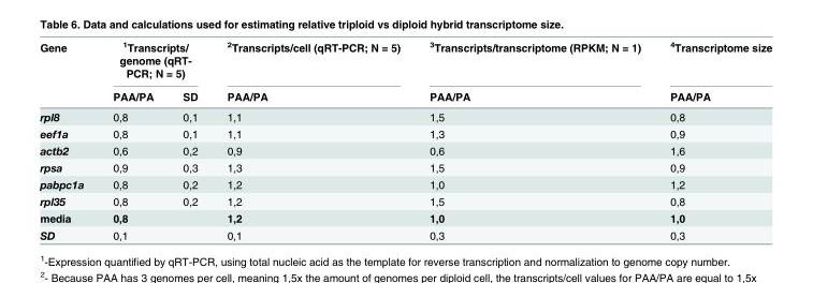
<table><thead><tr><td rowspan="2">Gene</td><td colspan="2"><sup>1</sup>Transcripts/ genome (qRT- PCR; N = 5)</td><td rowspan="2"><sup>2</sup>Transcripts/cell (qRT-PCR; N = 5) PAA/PA</td><td rowspan="2"><sup>3</sup>Transcripts/transcriptome (RPKM; N = 1) PAA/PA</td><td rowspan="2"><sup>4</sup>Transcriptome size PAA/PA</td></tr><tr><td>PAA/PA</td><td>SD</td></tr></thead><tbody><tr><td>rpl8</td><td>0,8</td><td>0,1</td><td>1,1</td><td>1,5</td><td>0,8</td></tr><tr><td>eef1a</td><td>0,8</td><td>0,1</td><td>1,1</td><td>1,3</td><td>0,9</td></tr><tr><td>actb2</td><td>0,6</td><td>0,2</td><td>0,9</td><td>0,6</td><td>1,6</td></tr><tr><td>rpsa</td><td>0,9</td><td>0,3</td><td>1,3</td><td>1,5</td><td>0,9</td></tr><tr><td>pabpc1a</td><td>0,8</td><td>0,2</td><td>1,2</td><td>1,0</td><td>1,2</td></tr><tr><td>rpl35</td><td>0,8</td><td>0,2</td><td>1,2</td><td>1,5</td><td>0,8</td></tr><tr><td>media</td><td>0,8</td><td></td><td>1,2</td><td>1,0</td><td>1,0</td></tr><tr><td>SD</td><td>0,1</td><td></td><td>0,1</td><td>0,3</td><td>0,3</td></tr></tbody></table>